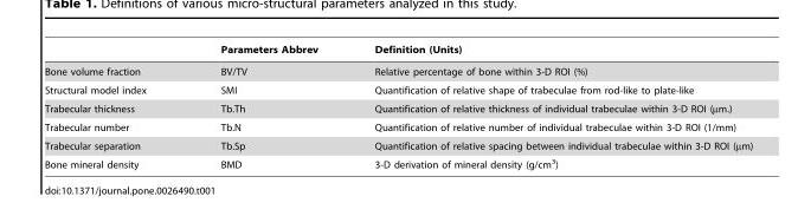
<table><thead><tr><td></td><td>Parameters Abbrev</td><td>Definition (Units)</td></tr></thead><tbody><tr><td>Bone volume fraction</td><td>BV/TV</td><td>Relative percentage of bone within 3-D ROI (%)</td></tr><tr><td>Structural model index</td><td>SMI</td><td>Quantification of relative shape of trabeculae from rod-like to plate-like</td></tr><tr><td>Trabecular thickness</td><td>Tb.Th</td><td>Quantification of relative thickness of individual trabeculae within 3-D ROI (µm.)</td></tr><tr><td>Trabecular number</td><td>Tb.N</td><td>Quantification of relative number of individual trabeculae within 3-D ROI (1/mm)</td></tr><tr><td>Trabecular separation</td><td>Tb.Sp</td><td>Quantification of relative spacing between individual trabeculae within 3-D ROI (µm)</td></tr><tr><td>Bone mineral density</td><td>BMD</td><td>3-D derivation of mineral density (g/cm<sup>3</sup>)</td></tr></tbody></table>